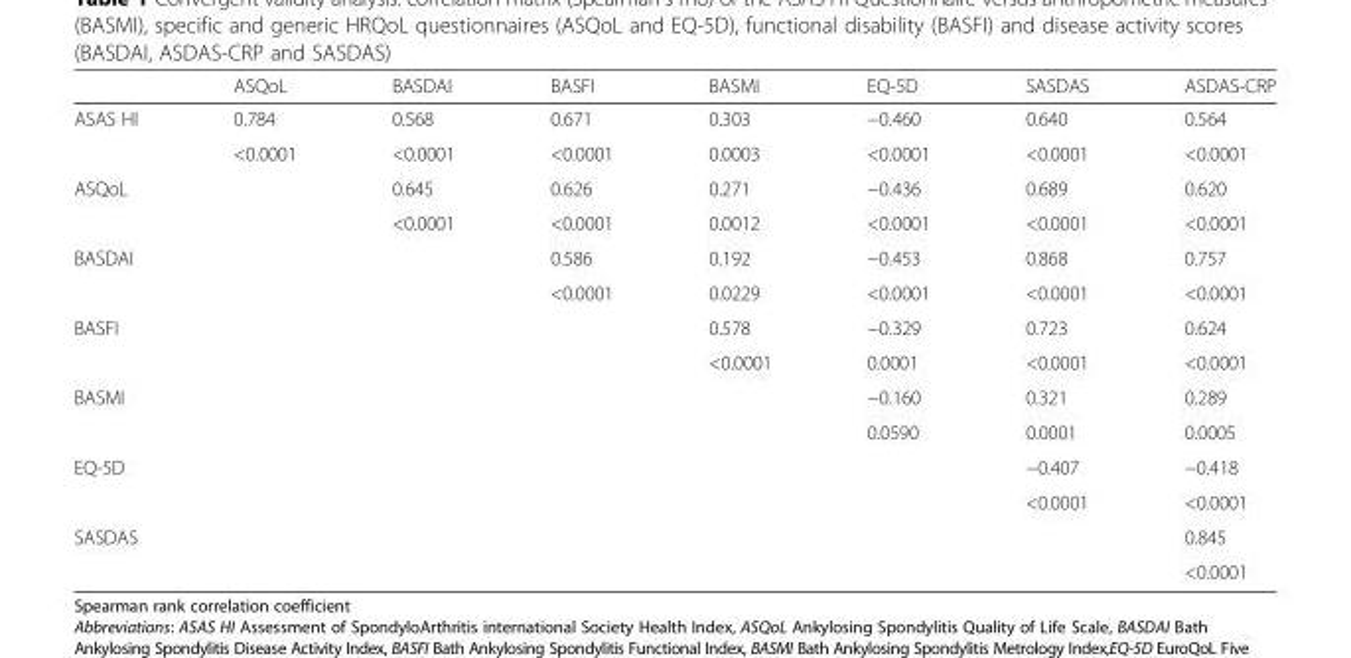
<table><thead><tr><td></td><td>ASQoL</td><td>BASDAI</td><td>BASFI</td><td>BASMI</td><td>EQ-5D</td><td>SASDAS</td><td>ASDAS-CRP</td></tr></thead><tbody><tr><td rowspan="2">ASAS HI</td><td>0.784</td><td>0.568</td><td>0.671</td><td>0.303</td><td>−0.460</td><td>0.640</td><td>0.564</td></tr><tr><td>&lt;0.0001</td><td>&lt;0.0001</td><td>&lt;0.0001</td><td>0.0003</td><td>&lt;0.0001</td><td>&lt;0.0001</td><td>&lt;0.0001</td></tr><tr><td rowspan="2">ASQoL</td><td></td><td>0.645</td><td>0.626</td><td>0.271</td><td>−0.436</td><td>0.689</td><td>0.620</td></tr><tr><td></td><td>&lt;0.0001</td><td>&lt;0.0001</td><td>0.0012</td><td>&lt;0.0001</td><td>&lt;0.0001</td><td>&lt;0.0001</td></tr><tr><td rowspan="2">BASDAI</td><td></td><td></td><td>0.586</td><td>0.192</td><td>−0.453</td><td>0.868</td><td>0.757</td></tr><tr><td></td><td></td><td>&lt;0.0001</td><td>0.0229</td><td>&lt;0.0001</td><td>&lt;0.0001</td><td>&lt;0.0001</td></tr><tr><td rowspan="2">BASFI</td><td></td><td></td><td></td><td>0.578</td><td>−0.329</td><td>0.723</td><td>0.624</td></tr><tr><td></td><td></td><td></td><td>&lt;0.0001</td><td>0.0001</td><td>&lt;0.0001</td><td>&lt;0.0001</td></tr><tr><td rowspan="2">BASMI</td><td></td><td></td><td></td><td></td><td>−0.160</td><td>0.321</td><td>0.289</td></tr><tr><td></td><td></td><td></td><td></td><td>0.0590</td><td>0.0001</td><td>0.0005</td></tr><tr><td rowspan="2">EQ-5D</td><td></td><td></td><td></td><td></td><td></td><td>−0.407</td><td>−0.418</td></tr><tr><td></td><td></td><td></td><td></td><td></td><td>&lt;0.0001</td><td>&lt;0.0001</td></tr><tr><td rowspan="2">SASDAS</td><td></td><td></td><td></td><td></td><td></td><td></td><td>0.845</td></tr><tr><td></td><td></td><td></td><td></td><td></td><td></td><td>&lt;0.0001</td></tr></tbody></table>